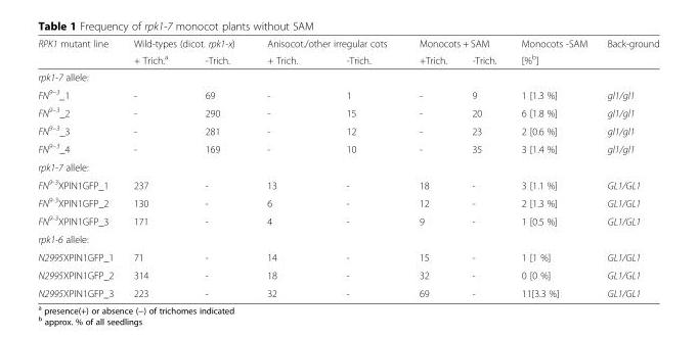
<table><thead><tr><td rowspan="2">RPK1 mutant line</td><td colspan="2">Wild-types (dicot. rpk1-x)</td><td colspan="2">Anisocot./other irregular cots</td><td colspan="2">Monocots + SAM</td><td rowspan="2">Monocots -SAM [%<sup>b</sup>]</td><td rowspan="2">Back-ground</td></tr><tr><td>+ Trich.<sup>a</sup></td><td>-Trich.</td><td>+ Trich.</td><td>-Trich.</td><td>+Trich.</td><td>-Trich.</td></tr></thead><tbody><tr><td colspan="9">rpk1-7 allele:</td></tr><tr><td>FN<sup>9–3</sup>_1</td><td>-</td><td>69</td><td>-</td><td>1</td><td>-</td><td>9</td><td>1 [1.3 %]</td><td>gl1/gl1</td></tr><tr><td>FN<sup>9–3</sup>_2</td><td>-</td><td>290</td><td>-</td><td>15</td><td>-</td><td>20</td><td>6 [1.8 %]</td><td>gl1/gl1</td></tr><tr><td>FN<sup>9–3</sup>_3</td><td>-</td><td>281</td><td>-</td><td>12</td><td>-</td><td>23</td><td>2 [0.6 %]</td><td>gl1/gl1</td></tr><tr><td>FN<sup>9–3</sup>_4</td><td>-</td><td>169</td><td>-</td><td>10</td><td>-</td><td>35</td><td>3 [1.4 %]</td><td>gl1/gl1</td></tr><tr><td colspan="9">rpk1-7 allele:</td></tr><tr><td>FN<sup>9-3</sup>XPIN1GFP_1</td><td>237</td><td>-</td><td>13</td><td>-</td><td>18</td><td>-</td><td>3 [1.1 %]</td><td>GL1/GL1</td></tr><tr><td>FN<sup>9-3</sup>XPIN1GFP_2</td><td>130</td><td>-</td><td>6</td><td>-</td><td>12</td><td>-</td><td>2 [1.3 %]</td><td>GL1/GL1</td></tr><tr><td>FN<sup>9-3</sup>XPIN1GFP_3</td><td>171</td><td>-</td><td>4</td><td>-</td><td>9</td><td>-</td><td>1 [0.5 %]</td><td>GL1/GL1</td></tr><tr><td colspan="9">rpk1-6 allele:</td></tr><tr><td>N2995XPIN1GFP_1</td><td>71</td><td>-</td><td>14</td><td>-</td><td>15</td><td>-</td><td>1 [1 %]</td><td>GL1/GL1</td></tr><tr><td>N2995XPIN1GFP_2</td><td>314</td><td>-</td><td>18</td><td>-</td><td>32</td><td>-</td><td>0 [0 %]</td><td>GL1/GL1</td></tr><tr><td>N2995XPIN1GFP_3</td><td>223</td><td>-</td><td>32</td><td>-</td><td>69</td><td>-</td><td>11[3.3 %]</td><td>GL1/GL1</td></tr></tbody></table>